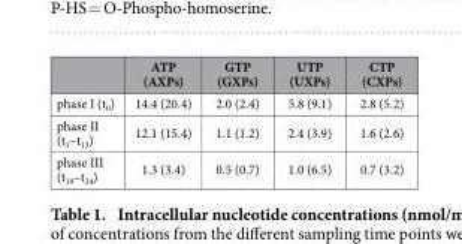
<table><thead><tr><td></td><td>ATP (AXPs)</td><td>GTP (GXPs)</td><td>UTP (UXPs)</td><td>CTP (CXPs)</td></tr></thead><tbody><tr><td>phase I (t<sub>0</sub>)</td><td>14.4 (20.4)</td><td>2.0 (2.4)</td><td>5.8 (9.1)</td><td>2.8 (5.2)</td></tr><tr><td>phase II (t<sub>1</sub>–t<sub>13</sub>)</td><td>12.1 (15.4)</td><td>1.1 (1.2)</td><td>2.4 (3.9)</td><td>1.6 (2.6)</td></tr><tr><td>phase III (t<sub>19</sub>–t<sub>24</sub>)</td><td>1.3 (3.4)</td><td>0.5 (0.7)</td><td>1.0 (6.5)</td><td>0.7 (3.2)</td></tr></tbody></table>